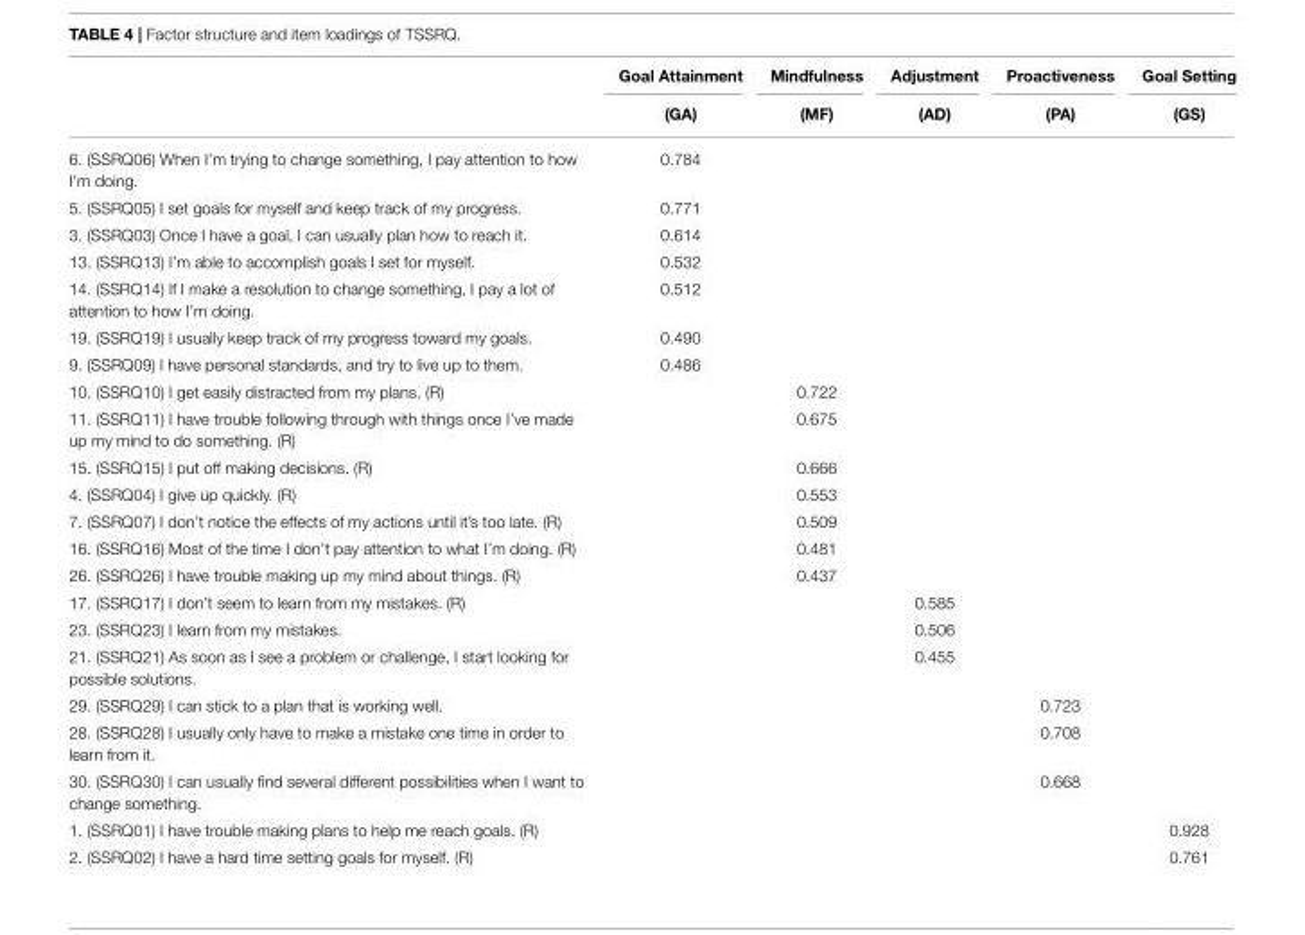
<table><thead><tr><td rowspan="2"></td><td rowspan="2">Goal Attainment (GA)</td><td rowspan="2">Mindfulness (MF)</td><td rowspan="2">Adjustment (AD)</td><td rowspan="2">Proactiveness (PA)</td><td rowspan="2">Goal Setting (GS)</td></tr><tr></tr></thead><tbody><tr><td>6. (SSRQ06) When I’m trying to change something, I pay attention to how I’m doing.</td><td>0.784</td><td></td><td></td><td></td><td></td></tr><tr><td>5. (SSRQ05) I set goals for myself and keep track of my progress.</td><td>0.771</td><td></td><td></td><td></td><td></td></tr><tr><td>3. (SSRQ03) Once I have a goal, I can usually plan how to reach it.</td><td>0.614</td><td></td><td></td><td></td><td></td></tr><tr><td>13. (SSRQ13) I’m able to accomplish goals I set for myself.</td><td>0.532</td><td></td><td></td><td></td><td></td></tr><tr><td>14. (SSRQ14) If I make a resolution to change something, I pay a lot of attention to how I’m doing.</td><td>0.512</td><td></td><td></td><td></td><td></td></tr><tr><td>19. (SSRQ19) I usually keep track of my progress toward my goals.</td><td>0.490</td><td></td><td></td><td></td><td></td></tr><tr><td>9. (SSRQ09) I have personal standards, and try to live up to them.</td><td>0.486</td><td></td><td></td><td></td><td></td></tr><tr><td>10. (SSRQ10) I get easily distracted from my plans. (R)</td><td></td><td>0.722</td><td></td><td></td><td></td></tr><tr><td>11. (SSRQ11) I have trouble following through with things once I’ve made up my mind to do something. (R)</td><td></td><td>0.675</td><td></td><td></td><td></td></tr><tr><td>15. (SSRQ15) I put off making decisions. (R)</td><td></td><td>0.666</td><td></td><td></td><td></td></tr><tr><td>4. (SSRQ04) I give up quickly. (R)</td><td></td><td>0.553</td><td></td><td></td><td></td></tr><tr><td>7. (SSRQ07) I don’t notice the effects of my actions until it’s too late. (R)</td><td></td><td>0.509</td><td></td><td></td><td></td></tr><tr><td>16. (SSRQ16) Most of the time I don’t pay attention to what I’m doing. (R)</td><td></td><td>0.481</td><td></td><td></td><td></td></tr><tr><td>26. (SSRQ26) I have trouble making up my mind about things. (R)</td><td></td><td>0.437</td><td></td><td></td><td></td></tr><tr><td>17. (SSRQ17) I don’t seem to learn from my mistakes. (R)</td><td></td><td></td><td>0.585</td><td></td><td></td></tr><tr><td>23. (SSRQ23) I learn from my mistakes.</td><td></td><td></td><td>0.506</td><td></td><td></td></tr><tr><td>21. (SSRQ21) As soon as I see a problem or challenge, I start looking for possible solutions.</td><td></td><td></td><td>0.455</td><td></td><td></td></tr><tr><td>29. (SSRQ29) I can stick to a plan that is working well.</td><td></td><td></td><td></td><td>0.723</td><td></td></tr><tr><td>28. (SSRQ28) I usually only have to make a mistake one time in order to learn from it.</td><td></td><td></td><td></td><td>0.708</td><td></td></tr><tr><td>30. (SSRQ30) I can usually find several different possibilities when I want to change something.</td><td></td><td></td><td></td><td>0.668</td><td></td></tr><tr><td>1. (SSRQ01) I have trouble making plans to help me reach goals. (R)</td><td></td><td></td><td></td><td></td><td>0.928</td></tr><tr><td>2. (SSRQ02) I have a hard time setting goals for myself. (R)</td><td></td><td></td><td></td><td></td><td>0.761</td></tr></tbody></table>